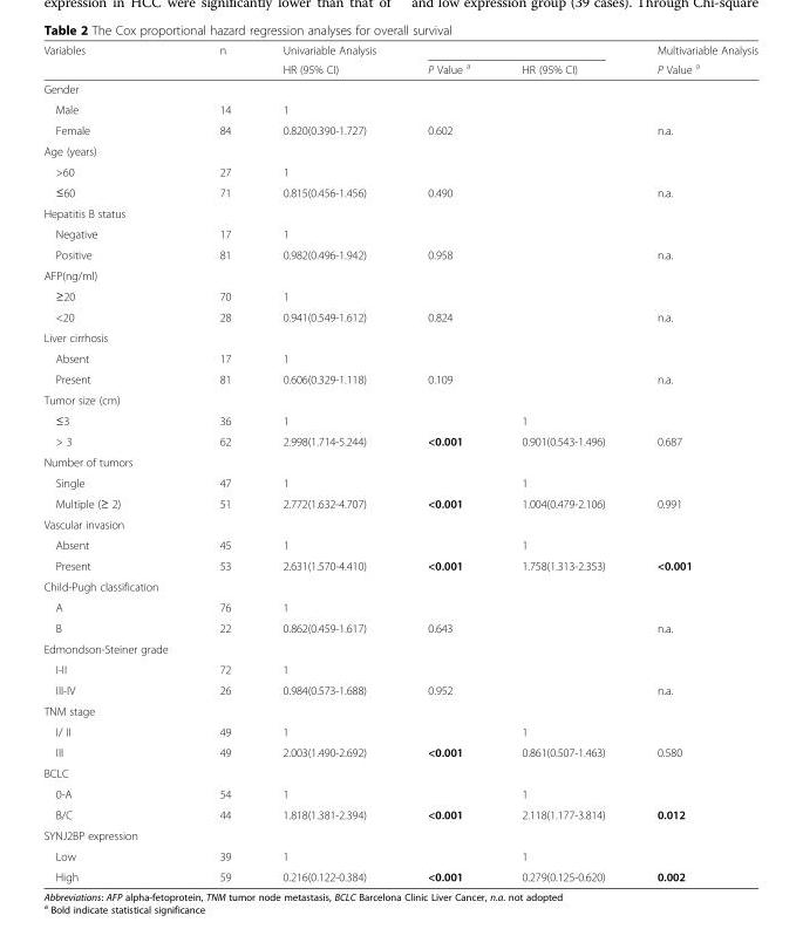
<table><thead><tr><td rowspan="2">Variables</td><td rowspan="2">n</td><td rowspan="2">Univariable Analysis HR (95% CI)</td><td rowspan="2">P Value <sup>a</sup></td><td rowspan="2">HR (95% CI)</td><td rowspan="2">Multivariable Analysis P Value <sup>a</sup></td></tr><tr></tr></thead><tbody><tr><td colspan="6">Gender</td></tr><tr><td>Male</td><td>14</td><td>1</td><td></td><td></td><td></td></tr><tr><td>Female</td><td>84</td><td>0.820(0.390-1.727)</td><td>0.602</td><td></td><td>n.a.</td></tr><tr><td colspan="6">Age (years)</td></tr><tr><td>&gt;60</td><td>27</td><td>1</td><td></td><td></td><td></td></tr><tr><td>≤60</td><td>71</td><td>0.815(0.456-1.456)</td><td>0.490</td><td></td><td>n.a.</td></tr><tr><td colspan="6">Hepatitis B status</td></tr><tr><td>Negative</td><td>17</td><td>1</td><td></td><td></td><td></td></tr><tr><td>Positive</td><td>81</td><td>0.982(0.496-1.942)</td><td>0.958</td><td></td><td>n.a.</td></tr><tr><td colspan="6">AFP(ng/ml)</td></tr><tr><td>≥20</td><td>70</td><td>1</td><td></td><td></td><td></td></tr><tr><td>&lt;20</td><td>28</td><td>0.941(0.549-1.612)</td><td>0.824</td><td></td><td>n.a.</td></tr><tr><td colspan="6">Liver cirrhosis</td></tr><tr><td>Absent</td><td>17</td><td>1</td><td></td><td></td><td></td></tr><tr><td>Present</td><td>81</td><td>0.606(0.329-1.118)</td><td>0.109</td><td></td><td>n.a.</td></tr><tr><td colspan="6">Tumor size (cm)</td></tr><tr><td>≤3</td><td>36</td><td>1</td><td></td><td>1</td><td></td></tr><tr><td>&gt; 3</td><td>62</td><td>2.998(1.714-5.244)</td><td>&lt;0.001</td><td>0.901(0.543-1.496)</td><td>0.687</td></tr><tr><td colspan="6">Number of tumors</td></tr><tr><td>Single</td><td>47</td><td>1</td><td></td><td>1</td><td></td></tr><tr><td>Multiple (≥ 2)</td><td>51</td><td>2.772(1.632-4.707)</td><td>&lt;0.001</td><td>1.004(0.479-2.106)</td><td>0.991</td></tr><tr><td colspan="6">Vascular invasion</td></tr><tr><td>Absent</td><td>45</td><td>1</td><td></td><td>1</td><td></td></tr><tr><td>Present</td><td>53</td><td>2.631(1.570-4.410)</td><td>&lt;0.001</td><td>1.758(1.313-2.353)</td><td>&lt;0.001</td></tr><tr><td colspan="6">Child-Pugh classification</td></tr><tr><td>A</td><td>76</td><td>1</td><td></td><td></td><td></td></tr><tr><td>B</td><td>22</td><td>0.862(0.459-1.617)</td><td>0.643</td><td></td><td>n.a.</td></tr><tr><td colspan="6">Edmondson-Steiner grade</td></tr><tr><td>I-II</td><td>72</td><td>1</td><td></td><td></td><td></td></tr><tr><td>III-IV</td><td>26</td><td>0.984(0.573-1.688)</td><td>0.952</td><td></td><td>n.a.</td></tr><tr><td colspan="6">TNM stage</td></tr><tr><td>I/ II</td><td>49</td><td>1</td><td></td><td>1</td><td></td></tr><tr><td>III</td><td>49</td><td>2.003(1.490-2.692)</td><td>&lt;0.001</td><td>0.861(0.507-1.463)</td><td>0.580</td></tr><tr><td colspan="6">BCLC</td></tr><tr><td>0-A</td><td>54</td><td>1</td><td></td><td>1</td><td></td></tr><tr><td>B/C</td><td>44</td><td>1.818(1.381-2.394)</td><td>&lt;0.001</td><td>2.118(1.177-3.814)</td><td>0.012</td></tr><tr><td colspan="6">SYNJ2BP expression</td></tr><tr><td>Low</td><td>39</td><td>1</td><td></td><td>1</td><td></td></tr><tr><td>High</td><td>59</td><td>0.216(0.122-0.384)</td><td>&lt;0.001</td><td>0.279(0.125-0.620)</td><td>0.002</td></tr></tbody></table>